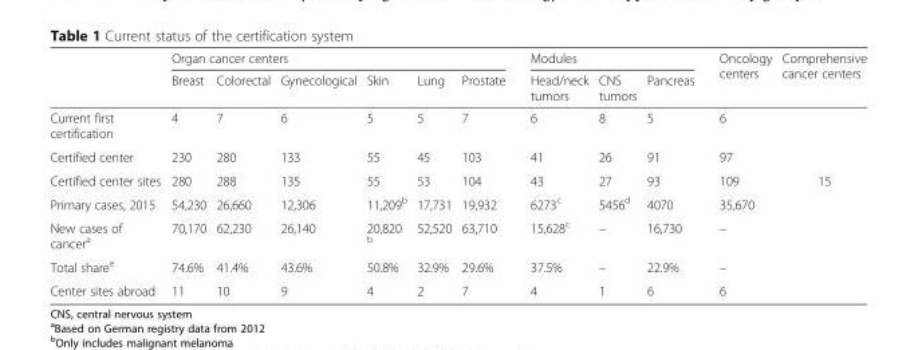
<table><thead><tr><td rowspan="2"></td><td colspan="6">Organ cancer centers</td><td colspan="3">Modules</td><td rowspan="2">Oncology centers</td><td rowspan="2">Comprehensive cancer centers</td></tr><tr><td>Breast</td><td>Colorectal</td><td>Gynecological</td><td>Skin</td><td>Lung</td><td>Prostate</td><td>Head/neck tumors</td><td>CNS tumors</td><td>Pancreas</td></tr></thead><tbody><tr><td>Current first certification</td><td>4</td><td>7</td><td>6</td><td>5</td><td>5</td><td>7</td><td>6</td><td>8</td><td>5</td><td>6</td><td></td></tr><tr><td>Certified center</td><td>230</td><td>280</td><td>133</td><td>55</td><td>45</td><td>103</td><td>41</td><td>26</td><td>91</td><td>97</td><td></td></tr><tr><td>Certified center sites</td><td>280</td><td>288</td><td>135</td><td>55</td><td>53</td><td>104</td><td>43</td><td>27</td><td>93</td><td>109</td><td>15</td></tr><tr><td>Primary cases, 2015</td><td>54,230</td><td>26,660</td><td>12,306</td><td>11,209<sup>b</sup></td><td>17,731</td><td>19,932</td><td>6273<sup>c</sup></td><td>5456<sup>d</sup></td><td>4070</td><td>35,670</td><td></td></tr><tr><td>New cases of cancer<sup>a</sup></td><td>70,170</td><td>62,230</td><td>26,140</td><td>20,820 <sup>b</sup></td><td>52,520</td><td>63,710</td><td>15,628<sup>c</sup></td><td>–</td><td>16,730</td><td>–</td><td></td></tr><tr><td>Total share<sup>e</sup></td><td>74.6%</td><td>41.4%</td><td>43.6%</td><td>50.8%</td><td>32.9%</td><td>29.6%</td><td>37.5%</td><td>–</td><td>22.9%</td><td>–</td><td></td></tr><tr><td>Center sites abroad</td><td>11</td><td>10</td><td>9</td><td>4</td><td>2</td><td>7</td><td>4</td><td>1</td><td>6</td><td>6</td><td></td></tr></tbody></table>